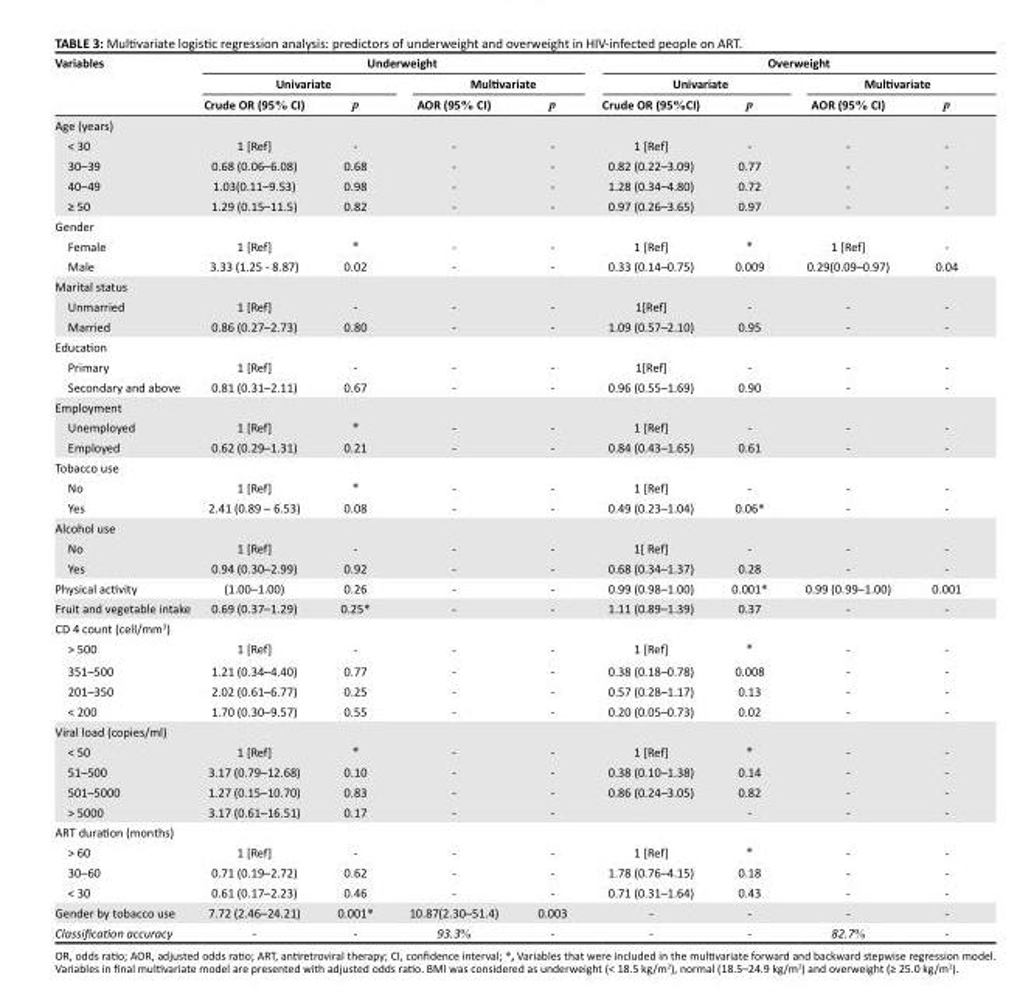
<table><thead><tr><td rowspan="3">Variables</td><td colspan="4">Underweight</td><td colspan="4">Overweight</td></tr><tr><td colspan="2">Univariate</td><td colspan="2">Multivariate</td><td colspan="2">Univariate</td><td colspan="2">Multivariate</td></tr><tr><td>Crude OR (95% CI)</td><td>p</td><td>AOR (95% CI)</td><td>p</td><td>Crude OR (95%CI)</td><td>p</td><td>AOR (95% CI)</td><td>p</td></tr></thead><tbody><tr><td colspan="9">Age (years)</td></tr><tr><td>&lt; 30</td><td>1 [Ref]</td><td>-</td><td>-</td><td>-</td><td>1 [Ref]</td><td>-</td><td>-</td><td>-</td></tr><tr><td>30–39</td><td>0.68 (0.06–6.08)</td><td>0.68</td><td>-</td><td>-</td><td>0.82 (0.22–3.09)</td><td>0.77</td><td>-</td><td>-</td></tr><tr><td>40–49</td><td>1.03(0.11–9.53)</td><td>0.98</td><td>-</td><td>-</td><td>1.28 (0.34–4.80)</td><td>0.72</td><td>-</td><td>-</td></tr><tr><td>≥ 50</td><td>1.29 (0.15–11.5)</td><td>0.82</td><td>-</td><td>-</td><td>0.97 (0.26–3.65)</td><td>0.97</td><td>-</td><td>-</td></tr><tr><td colspan="9">Gender</td></tr><tr><td>Female</td><td>1 [Ref]</td><td>*</td><td>-</td><td>-</td><td>1 [Ref]</td><td>*</td><td>1 [Ref]</td><td>-</td></tr><tr><td>Male</td><td>3.33 (1.25 - 8.87)</td><td>0.02</td><td>-</td><td>-</td><td>0.33 (0.14–0.75)</td><td>0.009</td><td>0.29(0.09–0.97)</td><td>0.04</td></tr><tr><td colspan="9">Marital status</td></tr><tr><td>Unmarried</td><td>1 [Ref]</td><td>-</td><td>-</td><td>-</td><td>1[Ref]</td><td>-</td><td>-</td><td>-</td></tr><tr><td>Married</td><td>0.86 (0.27–2.73)</td><td>0.80</td><td>-</td><td>-</td><td>1.09 (0.57–2.10)</td><td>0.95</td><td>-</td><td>-</td></tr><tr><td colspan="9">Education</td></tr><tr><td>Primary</td><td>1 [Ref]</td><td>-</td><td>-</td><td>-</td><td>1[Ref]</td><td>-</td><td>-</td><td>-</td></tr><tr><td>Secondary and above</td><td>0.81 (0.31–2.11)</td><td>0.67</td><td>-</td><td>-</td><td>0.96 (0.55–1.69)</td><td>0.90</td><td>-</td><td>-</td></tr><tr><td colspan="9">Employment</td></tr><tr><td>Unemployed</td><td>1 [Ref]</td><td>*</td><td>-</td><td>-</td><td>1 [Ref]</td><td>-</td><td>-</td><td>-</td></tr><tr><td>Employed</td><td>0.62 (0.29–1.31)</td><td>0.21</td><td>-</td><td>-</td><td>0.84 (0.43–1.65)</td><td>0.61</td><td>-</td><td>-</td></tr><tr><td colspan="9">Tobacco use</td></tr><tr><td>No</td><td>1 [Ref]</td><td>*</td><td>-</td><td>-</td><td>1 [Ref]</td><td>-</td><td>-</td><td>-</td></tr><tr><td>Yes</td><td>2.41 (0.89 – 6.53)</td><td>0.08</td><td>-</td><td>-</td><td>0.49 (0.23–1.04)</td><td>0.06*</td><td>-</td><td>-</td></tr><tr><td colspan="9">Alcohol use</td></tr><tr><td>No</td><td>1 [Ref]</td><td>-</td><td>-</td><td>-</td><td>1[ Ref]</td><td>-</td><td>-</td><td>-</td></tr><tr><td>Yes</td><td>0.94 (0.30–2.99)</td><td>0.92</td><td>-</td><td>-</td><td>0.68 (0.34–1.37)</td><td>0.28</td><td>-</td><td>-</td></tr><tr><td>Physical activity</td><td>(1.00–1.00)</td><td>0.26</td><td>-</td><td>-</td><td>0.99 (0.98–1.00)</td><td>0.001*</td><td>0.99 (0.99–1.00)</td><td>0.001</td></tr><tr><td>Fruit and vegetable intake</td><td>0.69 (0.37–1.29)</td><td>0.25*</td><td>-</td><td>-</td><td>1.11 (0.89–1.39)</td><td>0.37</td><td>-</td><td>-</td></tr><tr><td colspan="9">CD 4 count (cell/mm<sup>3</sup>)</td></tr><tr><td>&gt; 500</td><td>1 [Ref]</td><td>-</td><td>-</td><td>-</td><td>1 [Ref]</td><td>*</td><td>-</td><td>-</td></tr><tr><td>351–500</td><td>1.21 (0.34–4.40)</td><td>0.77</td><td>-</td><td>-</td><td>0.38 (0.18–0.78)</td><td>0.008</td><td>-</td><td>-</td></tr><tr><td>201–350</td><td>2.02 (0.61–6.77)</td><td>0.25</td><td>-</td><td>-</td><td>0.57 (0.28–1.17)</td><td>0.13</td><td>-</td><td>-</td></tr><tr><td>&lt; 200</td><td>1.70 (0.30–9.57)</td><td>0.55</td><td>-</td><td>-</td><td>0.20 (0.05–0.73)</td><td>0.02</td><td>-</td><td>-</td></tr><tr><td colspan="9">Viral load (copies/ml)</td></tr><tr><td>&lt; 50</td><td>1 [Ref]</td><td>*</td><td>-</td><td>-</td><td>1 [Ref]</td><td>*</td><td>-</td><td>-</td></tr><tr><td>51–500</td><td>3.17 (0.79–12.68)</td><td>0.10</td><td>-</td><td>-</td><td>0.38 (0.10–1.38)</td><td>0.14</td><td>-</td><td>-</td></tr><tr><td>501–5000</td><td>1.27 (0.15–10.70)</td><td>0.83</td><td>-</td><td>-</td><td>0.86 (0.24–3.05)</td><td>0.82</td><td>-</td><td>-</td></tr><tr><td>&gt; 5000</td><td>3.17 (0.61–16.51)</td><td>0.17</td><td>-</td><td>-</td><td></td><td>-</td><td>-</td><td>-</td></tr><tr><td colspan="9">ART duration (months)</td></tr><tr><td>&gt; 60</td><td>1 [Ref]</td><td>-</td><td>-</td><td>-</td><td>1 [Ref]</td><td>*</td><td>-</td><td>-</td></tr><tr><td>30–60</td><td>0.71 (0.19–2.72)</td><td>0.62</td><td>-</td><td>-</td><td>1.78 (0.76–4.15)</td><td>0.18</td><td>-</td><td>-</td></tr><tr><td>&lt; 30</td><td>0.61 (0.17–2.23)</td><td>0.46</td><td>-</td><td>-</td><td>0.71 (0.31–1.64)</td><td>0.43</td><td>-</td><td>-</td></tr><tr><td>Gender by tobacco use</td><td>7.72 (2.46–24.21)</td><td>0.001*</td><td>10.87(2.30–51.4)</td><td>0.003</td><td>-</td><td>-</td><td>-</td><td>-</td></tr><tr><td>Classification accuracy</td><td>-</td><td>-</td><td>93.3%</td><td>-</td><td>-</td><td>-</td><td>82.7%</td><td>-</td></tr></tbody></table>